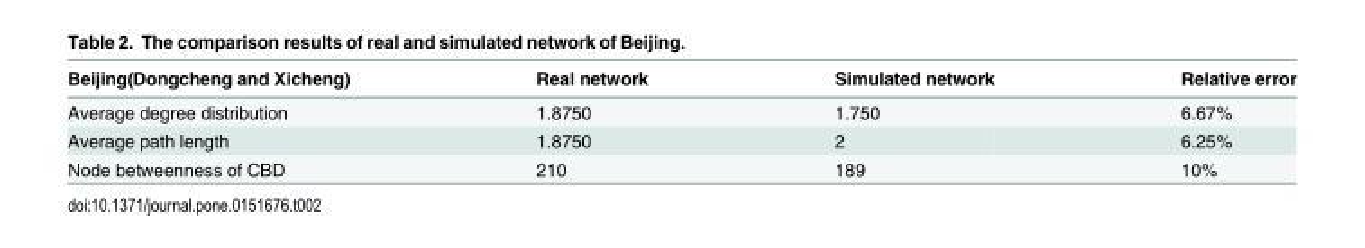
<table><thead><tr><td>Beijing(Dongcheng and Xicheng)</td><td>Real network</td><td>Simulated network</td><td>Relative error</td></tr></thead><tbody><tr><td>Average degree distribution</td><td>1.8750</td><td>1.750</td><td>6.67%</td></tr><tr><td>Average path length</td><td>1.8750</td><td>2</td><td>6.25%</td></tr><tr><td>Node betweenness of CBD</td><td>210</td><td>189</td><td>10%</td></tr></tbody></table>